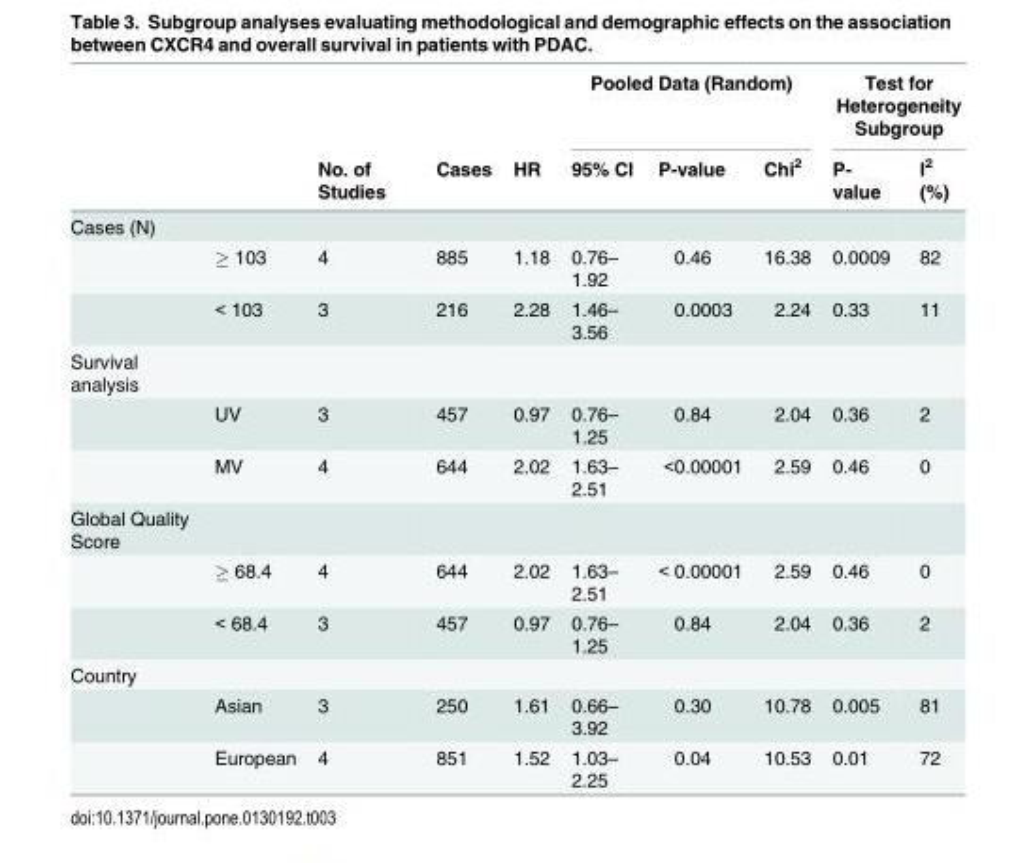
<table><thead><tr><td rowspan="2"></td><td rowspan="2"></td><td rowspan="2">No. of Studies</td><td rowspan="2">Cases</td><td rowspan="2">HR</td><td colspan="3">Pooled Data (Random)</td><td colspan="2">Test for Heterogeneity Subgroup</td></tr><tr><td>95% CI</td><td>P-value</td><td>Chi<sup>2</sup></td><td>P- value</td><td>I<sup>2</sup> (%)</td></tr></thead><tbody><tr><td colspan="10">Cases (N)</td></tr><tr><td></td><td>≥ 103</td><td>4</td><td>885</td><td>1.18</td><td>0.76– 1.92</td><td>0.46</td><td>16.38</td><td>0.0009</td><td>82</td></tr><tr><td></td><td>&lt; 103</td><td>3</td><td>216</td><td>2.28</td><td>1.46– 3.56</td><td>0.0003</td><td>2.24</td><td>0.33</td><td>11</td></tr><tr><td colspan="10">Survival analysis</td></tr><tr><td></td><td>UV</td><td>3</td><td>457</td><td>0.97</td><td>0.76– 1.25</td><td>0.84</td><td>2.04</td><td>0.36</td><td>2</td></tr><tr><td></td><td>MV</td><td>4</td><td>644</td><td>2.02</td><td>1.63– 2.51</td><td>&lt;0.00001</td><td>2.59</td><td>0.46</td><td>0</td></tr><tr><td colspan="10">Global Quality Score</td></tr><tr><td></td><td>≥ 68.4</td><td>4</td><td>644</td><td>2.02</td><td>1.63– 2.51</td><td>&lt; 0.00001</td><td>2.59</td><td>0.46</td><td>0</td></tr><tr><td></td><td>&lt; 68.4</td><td>3</td><td>457</td><td>0.97</td><td>0.76– 1.25</td><td>0.84</td><td>2.04</td><td>0.36</td><td>2</td></tr><tr><td colspan="10">Country</td></tr><tr><td></td><td>Asian</td><td>3</td><td>250</td><td>1.61</td><td>0.66– 3.92</td><td>0.30</td><td>10.78</td><td>0.005</td><td>81</td></tr><tr><td></td><td>European</td><td>4</td><td>851</td><td>1.52</td><td>1.03– 2.25</td><td>0.04</td><td>10.53</td><td>0.01</td><td>72</td></tr></tbody></table>